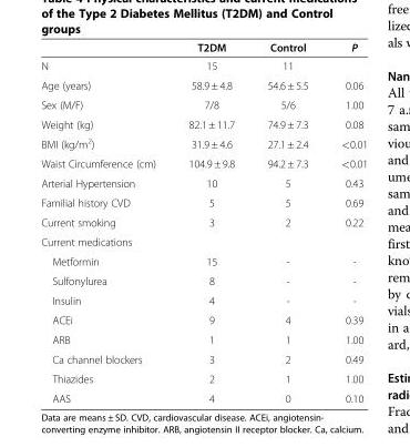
<table><thead><tr><td></td><td>T2DM</td><td>Control</td><td>P</td></tr></thead><tbody><tr><td>N</td><td>15</td><td>11</td><td></td></tr><tr><td>Age (years)</td><td>58.9 ± 4.8</td><td>54.6 ± 5.5</td><td>0.06</td></tr><tr><td>Sex (M/F)</td><td>7/8</td><td>5/6</td><td>1.00</td></tr><tr><td>Weight (kg)</td><td>82.1 ± 11.7</td><td>74.9 ± 7.3</td><td>0.08</td></tr><tr><td>BMI (kg/m<sup>2</sup>)</td><td>31.9 ± 4.6</td><td>27.1 ± 2.4</td><td>&lt;0.01</td></tr><tr><td>Waist Circumference (cm)</td><td>104.9 ± 9.8</td><td>94.2 ± 7.3</td><td>&lt;0.01</td></tr><tr><td>Arterial Hypertension</td><td>10</td><td>5</td><td>0.43</td></tr><tr><td>Familial history CVD</td><td>5</td><td>5</td><td>0.69</td></tr><tr><td>Current smoking</td><td>3</td><td>2</td><td>0.22</td></tr><tr><td colspan="4">Current medications</td></tr><tr><td>Metformin</td><td>15</td><td>-</td><td>-</td></tr><tr><td>Sulfonylurea</td><td>8</td><td>-</td><td>-</td></tr><tr><td>Insulin</td><td>4</td><td>-</td><td>-</td></tr><tr><td>ACEi</td><td>9</td><td>4</td><td>0.39</td></tr><tr><td>ARB</td><td>1</td><td>1</td><td>1.00</td></tr><tr><td>Ca channel blockers</td><td>3</td><td>2</td><td>0.49</td></tr><tr><td>Thiazides</td><td>2</td><td>1</td><td>1.00</td></tr><tr><td>AAS</td><td>4</td><td>0</td><td>0.10</td></tr></tbody></table>